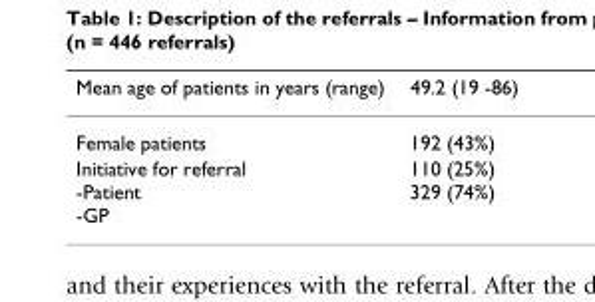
<table><thead><tr><td>Mean age of patients in years (range)</td><td>49.2 (19 -86)</td></tr></thead><tbody><tr><td>Female patients</td><td>192 (43%)</td></tr><tr><td>Initiative for referral -Patient -GP</td><td>110 (25%) 329 (74%)</td></tr></tbody></table>